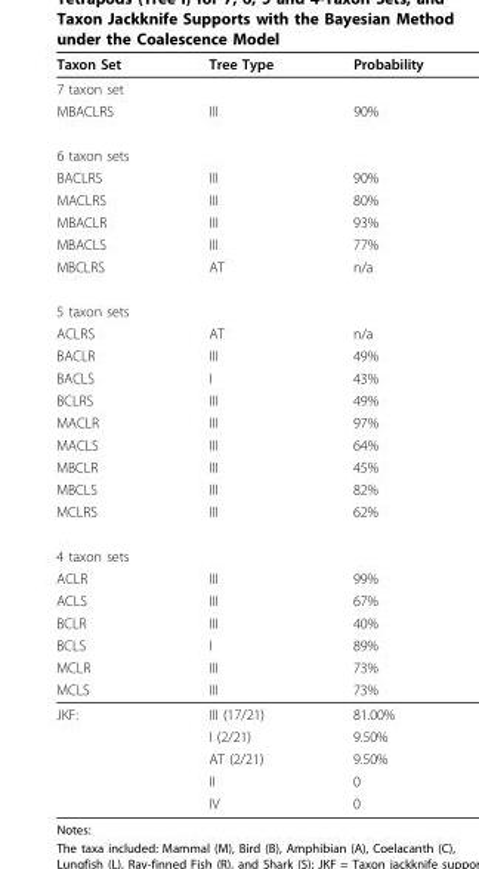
<table><thead><tr><td>Taxon Set</td><td>Tree Type</td><td>Probability</td></tr></thead><tbody><tr><td colspan="3">7 taxon set</td></tr><tr><td>MBACLRS</td><td>III</td><td>90%</td></tr><tr><td colspan="3">6 taxon sets</td></tr><tr><td>BACLRS</td><td>III</td><td>90%</td></tr><tr><td>MACLRS</td><td>III</td><td>80%</td></tr><tr><td>MBACLR</td><td>III</td><td>93%</td></tr><tr><td>MBACLS</td><td>III</td><td>77%</td></tr><tr><td>MBCLRS</td><td>AT</td><td>n/a</td></tr><tr><td colspan="3">5 taxon sets</td></tr><tr><td>ACLRS</td><td>AT</td><td>n/a</td></tr><tr><td>BACLR</td><td>III</td><td>49%</td></tr><tr><td>BACLS</td><td>I</td><td>43%</td></tr><tr><td>BCLRS</td><td>III</td><td>49%</td></tr><tr><td>MACLR</td><td>III</td><td>97%</td></tr><tr><td>MACLS</td><td>III</td><td>64%</td></tr><tr><td>MBCLR</td><td>III</td><td>45%</td></tr><tr><td>MBCLS</td><td>III</td><td>82%</td></tr><tr><td>MCLRS</td><td>III</td><td>62%</td></tr><tr><td colspan="3">4 taxon sets</td></tr><tr><td>ACLR</td><td>III</td><td>99%</td></tr><tr><td>ACLS</td><td>III</td><td>67%</td></tr><tr><td>BCLR</td><td>III</td><td>40%</td></tr><tr><td>BCLS</td><td>I</td><td>89%</td></tr><tr><td>MCLR</td><td>III</td><td>73%</td></tr><tr><td>MCLS</td><td>III</td><td>73%</td></tr><tr><td rowspan="5">JKF:</td><td>III (17/21)</td><td>81.00%</td></tr><tr><td>I (2/21)</td><td>9.50%</td></tr><tr><td>AT (2/21)</td><td>9.50%</td></tr><tr><td>II</td><td>0</td></tr><tr><td>IV</td><td>0</td></tr></tbody></table>